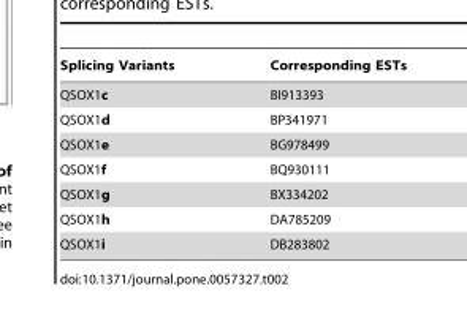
<table><thead><tr><td>Splicing Variants</td><td>Corresponding ESTs</td></tr></thead><tbody><tr><td>QSOX1c</td><td>BI913393</td></tr><tr><td>QSOX1d</td><td>BP341971</td></tr><tr><td>QSOX1e</td><td>BG978499</td></tr><tr><td>QSOX1f</td><td>BQ930111</td></tr><tr><td>QSOX1g</td><td>BX334202</td></tr><tr><td>QSOX1h</td><td>DA785209</td></tr><tr><td>QSOX1i</td><td>DB283802</td></tr></tbody></table>